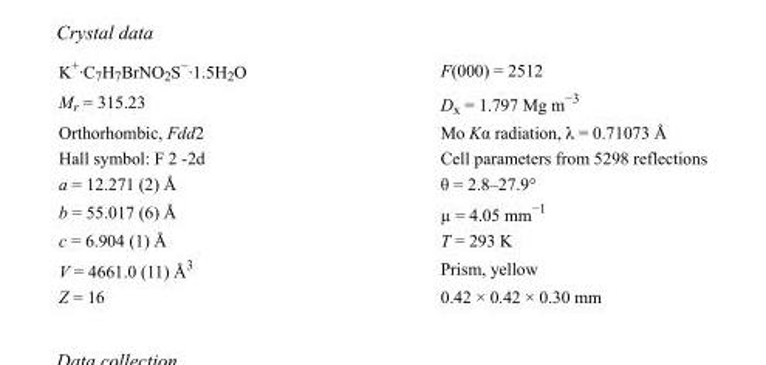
<table><tbody><tr><td>K<sup>+</sup>·C<sub>7</sub>H<sub>7</sub>BrNO<sub>2</sub>S<sup>−</sup>·1.5H<sub>2</sub>O</td><td>F(000) = 2512</td></tr><tr><td>M<sub>r</sub> = 315.23</td><td>D<sub>x</sub> = 1.797 Mg m<sup>−3</sup></td></tr><tr><td>Orthorhombic, Fdd2</td><td>Mo Kα radiation, λ = 0.71073 Å</td></tr><tr><td>Hall symbol: F 2 -2d</td><td>Cell parameters from 5298 reflections</td></tr><tr><td>a = 12.271 (2) Å</td><td>θ = 2.8–27.9°</td></tr><tr><td>b = 55.017 (6) Å</td><td>µ = 4.05 mm<sup>−1</sup></td></tr><tr><td>c = 6.904 (1) Å</td><td>T = 293 K</td></tr><tr><td>V = 4661.0 (11) Å<sup>3</sup></td><td>Prism, yellow</td></tr><tr><td>Z = 16</td><td>0.42 × 0.42 × 0.30 mm</td></tr></tbody></table>